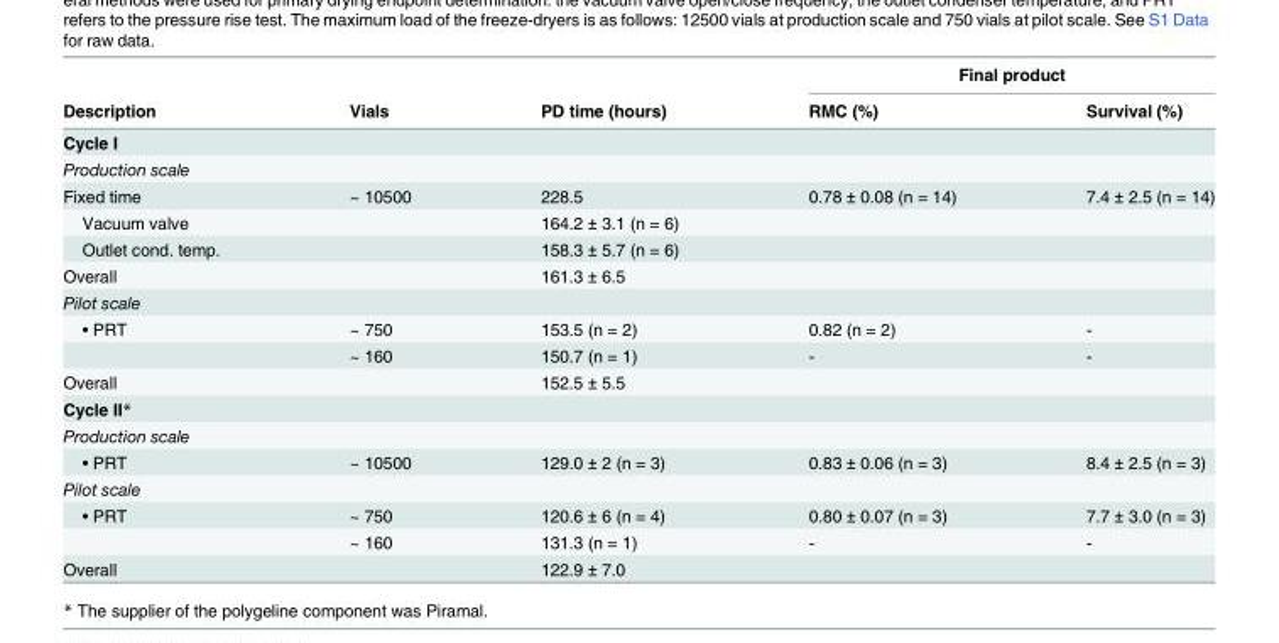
<table><thead><tr><td rowspan="2">Description</td><td rowspan="2">Vials</td><td rowspan="2">PD time (hours)</td><td colspan="2">Final product</td></tr><tr><td>RMC (%)</td><td>Survival (%)</td></tr></thead><tbody><tr><td colspan="5">Cycle I</td></tr><tr><td colspan="5">Production scale</td></tr><tr><td>Fixed time</td><td>~ 10500</td><td>228.5</td><td>0.78 ± 0.08 (n = 14)</td><td>7.4 ± 2.5 (n = 14)</td></tr><tr><td>Vacuum valve</td><td></td><td>164.2 ± 3.1 (n = 6)</td><td></td><td></td></tr><tr><td>Outlet cond. temp.</td><td></td><td>158.3 ± 5.7 (n = 6)</td><td></td><td></td></tr><tr><td>Overall</td><td></td><td>161.3 ± 6.5</td><td></td><td></td></tr><tr><td colspan="5">Pilot scale</td></tr><tr><td rowspan="2">• PRT</td><td>~ 750</td><td>153.5 (n = 2)</td><td>0.82 (n = 2)</td><td>-</td></tr><tr><td>~ 160</td><td>150.7 (n = 1)</td><td>-</td><td>-</td></tr><tr><td>Overall</td><td></td><td>152.5 ± 5.5</td><td></td><td></td></tr><tr><td colspan="5">Cycle II*</td></tr><tr><td colspan="5">Production scale</td></tr><tr><td>• PRT</td><td>~ 10500</td><td>129.0 ± 2 (n = 3)</td><td>0.83 ± 0.06 (n = 3)</td><td>8.4 ± 2.5 (n = 3)</td></tr><tr><td colspan="5">Pilot scale</td></tr><tr><td rowspan="2">• PRT</td><td>~ 750</td><td>120.6 ± 6 (n = 4)</td><td>0.80 ± 0.07 (n = 3)</td><td>7.7 ± 3.0 (n = 3)</td></tr><tr><td>~ 160</td><td>131.3 (n = 1)</td><td>-</td><td>-</td></tr><tr><td>Overall</td><td></td><td>122.9 ± 7.0</td><td></td><td></td></tr></tbody></table>